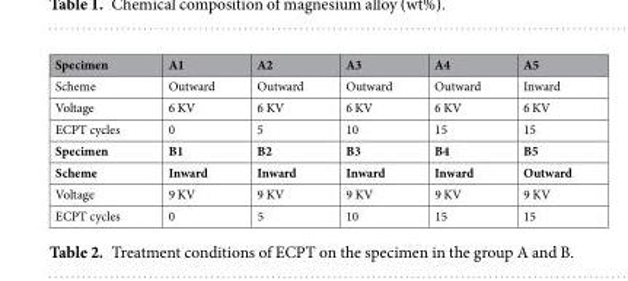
<table><thead><tr><td>Specimen</td><td>A1</td><td>A2</td><td>A3</td><td>A4</td><td>A5</td></tr></thead><tbody><tr><td>Scheme</td><td>Outward</td><td>Outward</td><td>Outward</td><td>Outward</td><td>Inward</td></tr><tr><td>Voltage</td><td>6 KV</td><td>6 KV</td><td>6 KV</td><td>6 KV</td><td>6 KV</td></tr><tr><td>ECPT cycles</td><td>0</td><td>5</td><td>10</td><td>15</td><td>15</td></tr><tr><td>Specimen</td><td>B1</td><td>B2</td><td>B3</td><td>B4</td><td>B5</td></tr><tr><td>Scheme</td><td>Inward</td><td>Inward</td><td>Inward</td><td>Inward</td><td>Outward</td></tr><tr><td>Voltage</td><td>9 KV</td><td>9 KV</td><td>9 KV</td><td>9 KV</td><td>9 KV</td></tr><tr><td>ECPT cycles</td><td>0</td><td>5</td><td>10</td><td>15</td><td>15</td></tr></tbody></table>